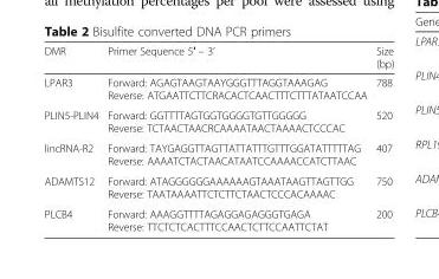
<table><thead><tr><td>DMR</td><td>Primer Sequence 5′ – 3’</td><td>Size (bp)</td></tr></thead><tbody><tr><td>LPAR3</td><td>Forward: AGAGTAAGTAAYGGGTTTAGGTAAAGAG Reverse: ATGAATTCTTCRACACTCAACTTTCTTTATAATCCAA</td><td>788</td></tr><tr><td>PLIN5-PLIN4</td><td>Forward: GGTTTTAGTGGTGGGGTGTTGGGGG Reverse: TCTAACTAACRCAAAATAACTAAAACTCCCAC</td><td>520</td></tr><tr><td>lincRNA-R2</td><td>Forward: TAYGAGGTTAGTTATTATTTGTTTGGATATTTTTAG Reverse: AAAATCTACTAACATAATCCAAAACCATCTTAAC</td><td>407</td></tr><tr><td>ADAMTS12</td><td>Forward: ATAGGGGGGAAAAAAGTAAATAAGTTAGTTGG Reverse: TAATAAAATTCTCTTCTAACTCCCACAAAAC</td><td>750</td></tr><tr><td>PLCB4</td><td>Forward: AAAGGTTTTAGAGGAGAGGGTGAGA Reverse: TTCTCTCACTTTCCAACTCTTCCAATTCTAT</td><td>200</td></tr></tbody></table>